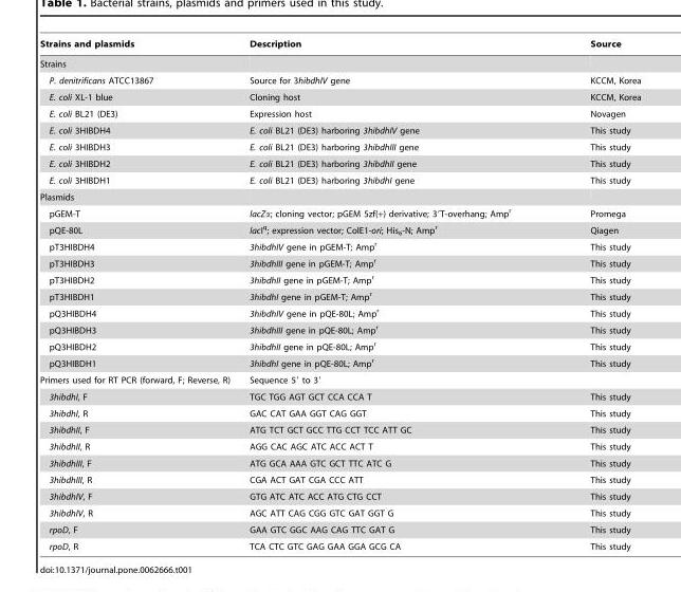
<table><thead><tr><td>Strains and plasmids</td><td>Description</td><td>Source</td></tr></thead><tbody><tr><td colspan="3">Strains</td></tr><tr><td>P. denitrificans ATCC13867</td><td>Source for 3hibdhIV gene</td><td>KCCM, Korea</td></tr><tr><td>E. coli XL-1 blue</td><td>Cloning host</td><td>KCCM, Korea</td></tr><tr><td>E. coli BL21 (DE3)</td><td>Expression host</td><td>Novagen</td></tr><tr><td>E. coli 3HIBDH4</td><td>E. coli BL21 (DE3) harboring 3hibdhIV gene</td><td>This study</td></tr><tr><td>E. coli 3HIBDH3</td><td>E. coli BL21 (DE3) harboring 3hibdhIII gene</td><td>This study</td></tr><tr><td>E. coli 3HIBDH2</td><td>E. coli BL21 (DE3) harboring 3hibdhII gene</td><td>This study</td></tr><tr><td>E. coli 3HIBDH1</td><td>E. coli BL21 (DE3) harboring 3hibdhI gene</td><td>This study</td></tr><tr><td colspan="3">Plasmids</td></tr><tr><td>pGEM-T</td><td>lacZα; cloning vector; pGEM 5zf(+) derivative; 3′T-overhang; Amp<sup>r</sup></td><td>Promega</td></tr><tr><td>pQE-80L</td><td>lacI<sup>q</sup>; expression vector; ColE1-ori; His<sub>6</sub>-N; Amp<sup>r</sup></td><td>Qiagen</td></tr><tr><td>pT3HIBDH4</td><td>3hibdhIV gene in pGEM-T; Amp<sup>r</sup></td><td>This study</td></tr><tr><td>pT3HIBDH3</td><td>3hibdhIII gene in pGEM-T; Amp<sup>r</sup></td><td>This study</td></tr><tr><td>pT3HIBDH2</td><td>3hibdhII gene in pGEM-T; Amp<sup>r</sup></td><td>This study</td></tr><tr><td>pT3HIBDH1</td><td>3hibdhI gene in pGEM-T; Amp<sup>r</sup></td><td>This study</td></tr><tr><td>pQ3HIBDH4</td><td>3hibdhIV gene in pQE-80L; Amp<sup>r</sup></td><td>This study</td></tr><tr><td>pQ3HIBDH3</td><td>3hibdhIII gene in pQE-80L; Amp<sup>r</sup></td><td>This study</td></tr><tr><td>pQ3HIBDH2</td><td>3hibdhII gene in pQE-80L; Amp<sup>r</sup></td><td>This study</td></tr><tr><td>pQ3HIBDH1</td><td>3hibdhI gene in pQE-80L; Amp<sup>r</sup></td><td>This study</td></tr><tr><td>Primers used for RT PCR (forward, F; Reverse, R)</td><td>Sequence 5′ to 3′</td><td></td></tr><tr><td>3hibdhI, F</td><td>TGC TGG AGT GCT CCA CCA T</td><td>This study</td></tr><tr><td>3hibdhI, R</td><td>GAC CAT GAA GGT CAG GGT</td><td>This study</td></tr><tr><td>3hibdhII, F</td><td>ATG TCT GCT GCC TTG CCT TCC ATT GC</td><td>This study</td></tr><tr><td>3hibdhII, R</td><td>AGG CAC AGC ATC ACC ACT T</td><td>This study</td></tr><tr><td>3hibdhIII, F</td><td>ATG GCA AAA GTC GCT TTC ATC G</td><td>This study</td></tr><tr><td>3hibdhIII, R</td><td>CGA ACT GAT CGA CCC ATT</td><td>This study</td></tr><tr><td>3hibdhIV, F</td><td>GTG ATC ATC ACC ATG CTG CCT</td><td>This study</td></tr><tr><td>3hibdhIV, R</td><td>AGC ATT CAG CGG GTC GAT GGT G</td><td>This study</td></tr><tr><td>rpoD, F</td><td>GAA GTC GGC AAG CAG TTC GAT G</td><td>This study</td></tr><tr><td>rpoD, R</td><td>TCA CTC GTC GAG GAA GGA GCG CA</td><td>This study</td></tr></tbody></table>